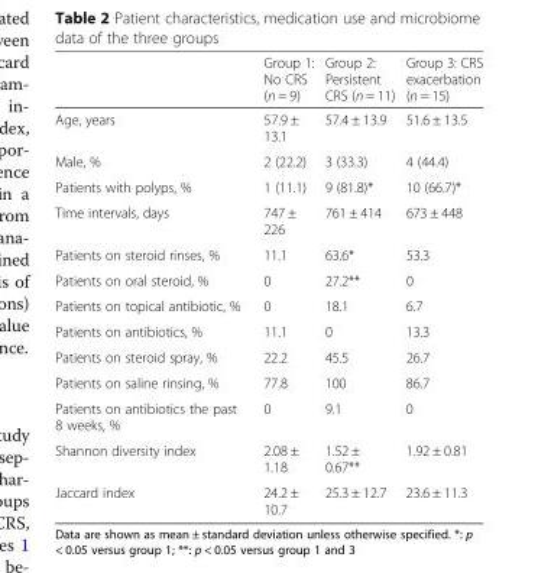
<table><thead><tr><td></td><td>Group 1: No CRS (n = 9)</td><td>Group 2: Persistent CRS (n = 11)</td><td>Group 3: CRS exacerbation (n = 15)</td></tr></thead><tbody><tr><td>Age, years</td><td>57.9 ± 13.1</td><td>57.4 ± 13.9</td><td>51.6 ± 13.5</td></tr><tr><td>Male, %</td><td>2 (22.2)</td><td>3 (33.3)</td><td>4 (44.4)</td></tr><tr><td>Patients with polyps, %</td><td>1 (11.1)</td><td>9 (81.8)*</td><td>10 (66.7)*</td></tr><tr><td>Time intervals, days</td><td>747 ± 226</td><td>761 ± 414</td><td>673 ± 448</td></tr><tr><td>Patients on steroid rinses, %</td><td>11.1</td><td>63.6*</td><td>53.3</td></tr><tr><td>Patients on oral steroid, %</td><td>0</td><td>27.2**</td><td>0</td></tr><tr><td>Patients on topical antibiotic, %</td><td>0</td><td>18.1</td><td>6.7</td></tr><tr><td>Patients on antibiotics, %</td><td>11.1</td><td>0</td><td>13.3</td></tr><tr><td>Patients on steroid spray, %</td><td>22.2</td><td>45.5</td><td>26.7</td></tr><tr><td>Patients on saline rinsing, %</td><td>77.8</td><td>100</td><td>86.7</td></tr><tr><td>Patients on antibiotics the past 8 weeks, %</td><td>0</td><td>9.1</td><td>0</td></tr><tr><td>Shannon diversity index</td><td>2.08 ± 1.18</td><td>1.52 ± 0.67**</td><td>1.92 ± 0.81</td></tr><tr><td>Jaccard index</td><td>24.2 ± 10.7</td><td>25.3 ± 12.7</td><td>23.6 ± 11.3</td></tr></tbody></table>